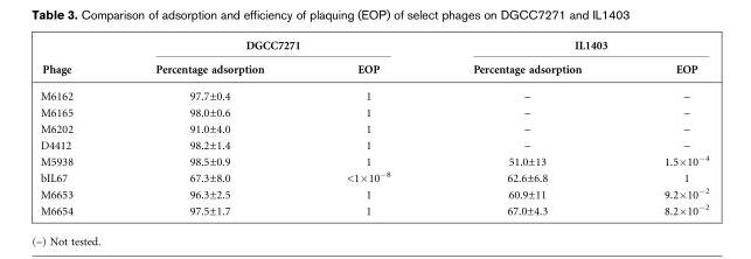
<table><thead><tr><td rowspan="2">Phage</td><td colspan="2">DGCC7271</td><td colspan="2">IL1403</td></tr><tr><td>Percentage adsorption</td><td>EOP</td><td>Percentage adsorption</td><td>EOP</td></tr></thead><tbody><tr><td>M6162</td><td>97.7±0.4</td><td>1</td><td>–</td><td>–</td></tr><tr><td>M6165</td><td>98.0±0.6</td><td>1</td><td>–</td><td>–</td></tr><tr><td>M6202</td><td>91.0±4.0</td><td>1</td><td>–</td><td>–</td></tr><tr><td>D4412</td><td>98.2±1.4</td><td>1</td><td>–</td><td>–</td></tr><tr><td>M5938</td><td>98.5±0.9</td><td>1</td><td>51.0±13</td><td>1.5×10<sup>−4</sup></td></tr><tr><td>bIL67</td><td>67.3±8.0</td><td>&lt;1×10<sup>−8</sup></td><td>62.6±6.8</td><td>1</td></tr><tr><td>M6653</td><td>96.3±2.5</td><td>1</td><td>60.9±11</td><td>9.2×10<sup>−2</sup></td></tr><tr><td>M6654</td><td>97.5±1.7</td><td>1</td><td>67.0±4.3</td><td>8.2×10<sup>−2</sup></td></tr></tbody></table>